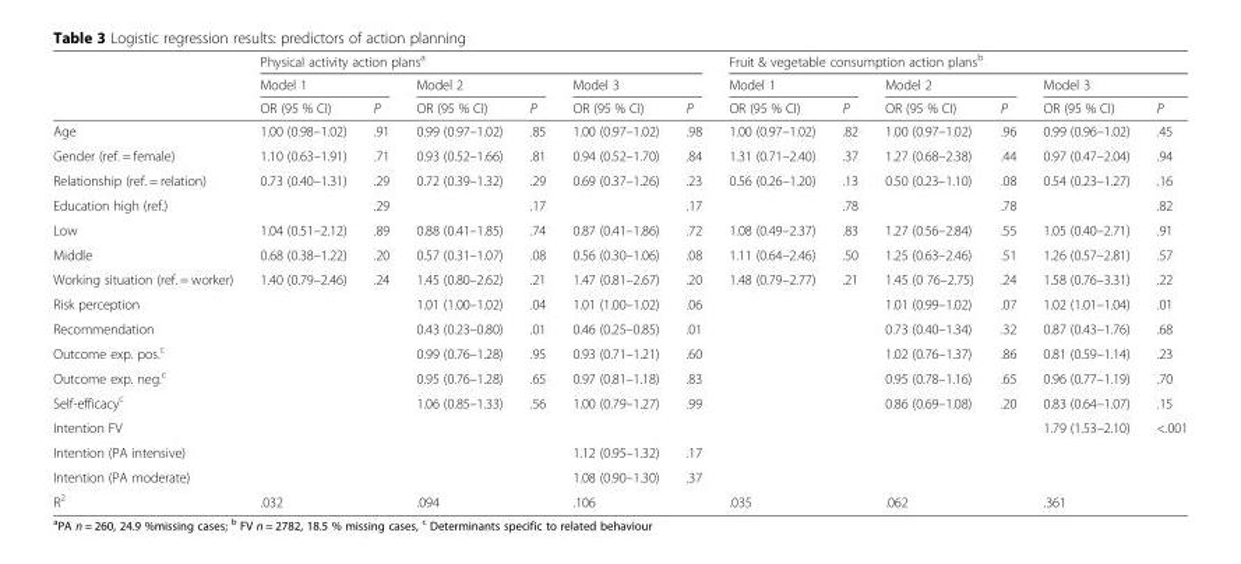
<table><thead><tr><td rowspan="3"></td><td colspan="6">Physical activity action plans<sup>a</sup></td><td colspan="6">Fruit &amp; vegetable consumption action plans<sup>b</sup></td></tr><tr><td colspan="2">Model 1</td><td colspan="2">Model 2</td><td colspan="2">Model 3</td><td colspan="2">Model 1</td><td colspan="2">Model 2</td><td colspan="2">Model 3</td></tr><tr><td>OR (95 % CI)</td><td>P</td><td>OR (95 % CI)</td><td>P</td><td>OR (95 % CI)</td><td>P</td><td>OR (95 % CI)</td><td>P</td><td>OR (95 % CI)</td><td>P</td><td>OR (95 % CI)</td><td>P</td></tr></thead><tbody><tr><td>Age</td><td>1.00 (0.98–1.02)</td><td>.91</td><td>0.99 (0.97–1.02)</td><td>.85</td><td>1.00 (0.97–1.02)</td><td>.98</td><td>1.00 (0.97–1.02)</td><td>.82</td><td>1.00 (0.97–1.02)</td><td>.96</td><td>0.99 (0.96–1.02)</td><td>.45</td></tr><tr><td>Gender (ref. = female)</td><td>1.10 (0.63–1.91)</td><td>.71</td><td>0.93 (0.52–1.66)</td><td>.81</td><td>0.94 (0.52–1.70)</td><td>.84</td><td>1.31 (0.71–2.40)</td><td>.37</td><td>1.27 (0.68–2.38)</td><td>.44</td><td>0.97 (0.47–2.04)</td><td>.94</td></tr><tr><td>Relationship (ref. = relation)</td><td>0.73 (0.40–1.31)</td><td>.29</td><td>0.72 (0.39–1.32)</td><td>.29</td><td>0.69 (0.37–1.26)</td><td>.23</td><td>0.56 (0.26–1.20)</td><td>.13</td><td>0.50 (0.23–1.10)</td><td>.08</td><td>0.54 (0.23–1.27)</td><td>.16</td></tr><tr><td>Education high (ref.)</td><td></td><td>.29</td><td></td><td>.17</td><td></td><td>.17</td><td></td><td>.78</td><td></td><td>.78</td><td></td><td>.82</td></tr><tr><td>Low</td><td>1.04 (0.51–2.12)</td><td>.89</td><td>0.88 (0.41–1.85)</td><td>.74</td><td>0.87 (0.41–1.86)</td><td>.72</td><td>1.08 (0.49–2.37)</td><td>.83</td><td>1.27 (0.56–2.84)</td><td>.55</td><td>1.05 (0.40–2.71)</td><td>.91</td></tr><tr><td>Middle</td><td>0.68 (0.38–1.22)</td><td>.20</td><td>0.57 (0.31–1.07)</td><td>.08</td><td>0.56 (0.30–1.06)</td><td>.08</td><td>1.11 (0.64–2.46)</td><td>.50</td><td>1.25 (0.63–2.46)</td><td>.51</td><td>1.26 (0.57–2.81)</td><td>.57</td></tr><tr><td>Working situation (ref. = worker)</td><td>1.40 (0.79–2.46)</td><td>.24</td><td>1.45 (0.80–2.62)</td><td>.21</td><td>1.47 (0.81–2.67)</td><td>.20</td><td>1.48 (0.79–2.77)</td><td>.21</td><td>1.45 (0 76–2.75)</td><td>.24</td><td>1.58 (0.76–3.31)</td><td>.22</td></tr><tr><td>Risk perception</td><td></td><td></td><td>1.01 (1.00–1.02)</td><td>.04</td><td>1.01 (1.00–1.02)</td><td>.06</td><td></td><td></td><td>1.01 (0.99–1.02)</td><td>.07</td><td>1.02 (1.01–1.04)</td><td>.01</td></tr><tr><td>Recommendation</td><td></td><td></td><td>0.43 (0.23–0.80)</td><td>.01</td><td>0.46 (0.25–0.85)</td><td>.01</td><td></td><td></td><td>0.73 (0.40–1.34)</td><td>.32</td><td>0.87 (0.43–1.76)</td><td>.68</td></tr><tr><td>Outcome exp. pos.<sup>c</sup></td><td></td><td></td><td>0.99 (0.76–1.28)</td><td>.95</td><td>0.93 (0.71–1.21)</td><td>.60</td><td></td><td></td><td>1.02 (0.76–1.37)</td><td>.86</td><td>0.81 (0.59–1.14)</td><td>.23</td></tr><tr><td>Outcome exp. neg.<sup>c</sup></td><td></td><td></td><td>0.95 (0.76–1.28)</td><td>.65</td><td>0.97 (0.81–1.18)</td><td>.83</td><td></td><td></td><td>0.95 (0.78–1.16)</td><td>.65</td><td>0.96 (0.77–1.19)</td><td>.70</td></tr><tr><td>Self-efficacy<sup>c</sup></td><td></td><td></td><td>1.06 (0.85–1.33)</td><td>.56</td><td>1.00 (0.79–1.27)</td><td>.99</td><td></td><td></td><td>0.86 (0.69–1.08)</td><td>.20</td><td>0.83 (0.64–1.07)</td><td>.15</td></tr><tr><td>Intention FV</td><td></td><td></td><td></td><td></td><td></td><td></td><td></td><td></td><td></td><td></td><td>1.79 (1.53–2.10)</td><td>&lt;.001</td></tr><tr><td>Intention (PA intensive)</td><td></td><td></td><td></td><td></td><td>1.12 (0.95–1.32)</td><td>.17</td><td></td><td></td><td></td><td></td><td></td><td></td></tr><tr><td>Intention (PA moderate)</td><td></td><td></td><td></td><td></td><td>1.08 (0.90–1.30)</td><td>.37</td><td></td><td></td><td></td><td></td><td></td><td></td></tr><tr><td>R<sup>2</sup></td><td>.032</td><td></td><td>.094</td><td></td><td>.106</td><td></td><td>.035</td><td></td><td>.062</td><td></td><td>.361</td><td></td></tr></tbody></table>